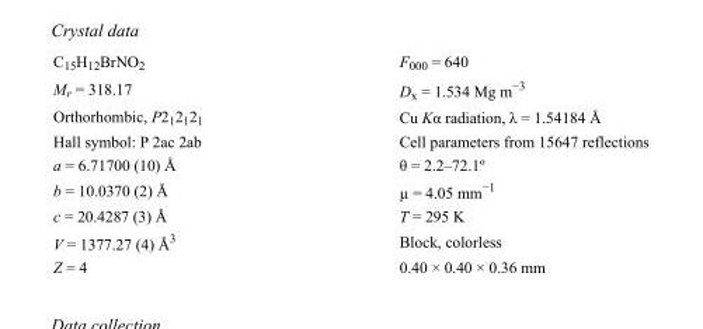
<table><tbody><tr><td>C<sub>15</sub>H<sub>12</sub>BrNO<sub>2</sub></td><td>F000 = 640</td></tr><tr><td>M<sub>r</sub> = 318.17</td><td>D<sub>x</sub> = 1.534 Mg m<sup>−3</sup></td></tr><tr><td>Orthorhombic, P2<sub>1</sub>2<sub>1</sub>2<sub>1</sub></td><td>Cu Kα radiation, λ = 1.54184 Å</td></tr><tr><td>Hall symbol: P 2ac 2ab</td><td>Cell parameters from 15647 reflections</td></tr><tr><td>a = 6.71700 (10) Å</td><td>θ = 2.2–72.1º</td></tr><tr><td>b = 10.0370 (2) Å</td><td>µ = 4.05 mm<sup>−1</sup></td></tr><tr><td>c = 20.4287 (3) Å</td><td>T = 295 K</td></tr><tr><td>V = 1377.27 (4) Å<sup>3</sup></td><td>Block, colorless</td></tr><tr><td>Z = 4</td><td>0.40 × 0.40 × 0.36 mm</td></tr></tbody></table>